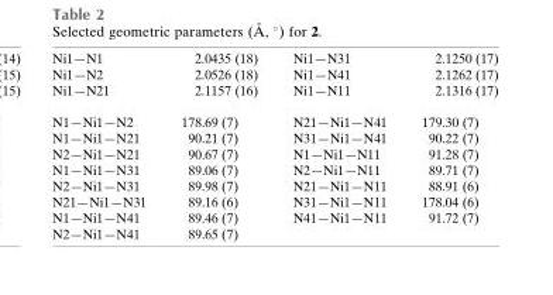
<table><tbody><tr><td>Ni1—N1</td><td>2.0435 (18)</td><td>Ni1—N31</td><td>2.1250 (17)</td></tr><tr><td>Ni1—N2</td><td>2.0526 (18)</td><td>Ni1—N41</td><td>2.1262 (17)</td></tr><tr><td>Ni1—N21</td><td>2.1157 (16)</td><td>Ni1—N11</td><td>2.1316 (17)</td></tr><tr><td>N1—Ni1—N2</td><td>178.69 (7)</td><td>N21—Ni1—N41</td><td>179.30 (7)</td></tr><tr><td>N1—Ni1—N21</td><td>90.21 (7)</td><td>N31—Ni1—N41</td><td>90.22 (7)</td></tr><tr><td>N2—Ni1—N21</td><td>90.67 (7)</td><td>N1—Ni1—N11</td><td>91.28 (7)</td></tr><tr><td>N1—Ni1—N31</td><td>89.06 (7)</td><td>N2—Ni1—N11</td><td>89.71 (7)</td></tr><tr><td>N2—Ni1—N31</td><td>89.98 (7)</td><td>N21—Ni1—N11</td><td>88.91 (6)</td></tr><tr><td>N21—Ni1—N31</td><td>89.16 (6)</td><td>N31—Ni1—N11</td><td>178.04 (6)</td></tr><tr><td>N1—Ni1—N41</td><td>89.46 (7)</td><td>N41—Ni1—N11</td><td>91.72 (7)</td></tr><tr><td>N2—Ni1—N41</td><td>89.65 (7)</td><td></td><td></td></tr></tbody></table>